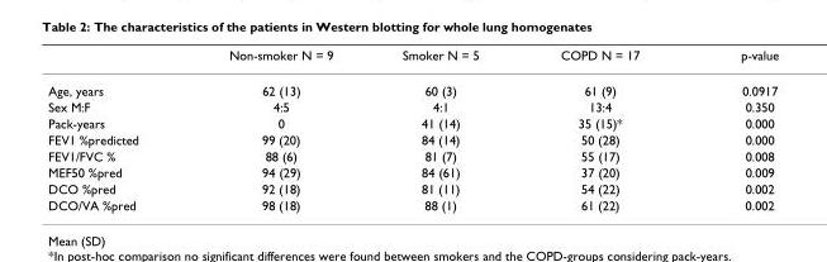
<table><thead><tr><td></td><td>Non-smoker N = 9</td><td>Smoker N = 5</td><td>COPD N = 17</td><td>p-value</td></tr></thead><tbody><tr><td>Age, years</td><td>62 (13)</td><td>60 (3)</td><td>61 (9)</td><td>0.0917</td></tr><tr><td>Sex M:F</td><td>4:5</td><td>4:1</td><td>13:4</td><td>0.350</td></tr><tr><td>Pack-years</td><td>0</td><td>41 (14)</td><td>35 (15)*</td><td>0.000</td></tr><tr><td>FEV1 %predicted</td><td>99 (20)</td><td>84 (14)</td><td>50 (28)</td><td>0.000</td></tr><tr><td>FEV1/FVC %</td><td>88 (6)</td><td>81 (7)</td><td>55 (17)</td><td>0.008</td></tr><tr><td>MEF50 %pred</td><td>94 (29)</td><td>84 (61)</td><td>37 (20)</td><td>0.009</td></tr><tr><td>DCO %pred</td><td>92 (18)</td><td>81 (11)</td><td>54 (22)</td><td>0.002</td></tr><tr><td>DCO/VA %pred</td><td>98 (18)</td><td>88 (1)</td><td>61 (22)</td><td>0.002</td></tr></tbody></table>